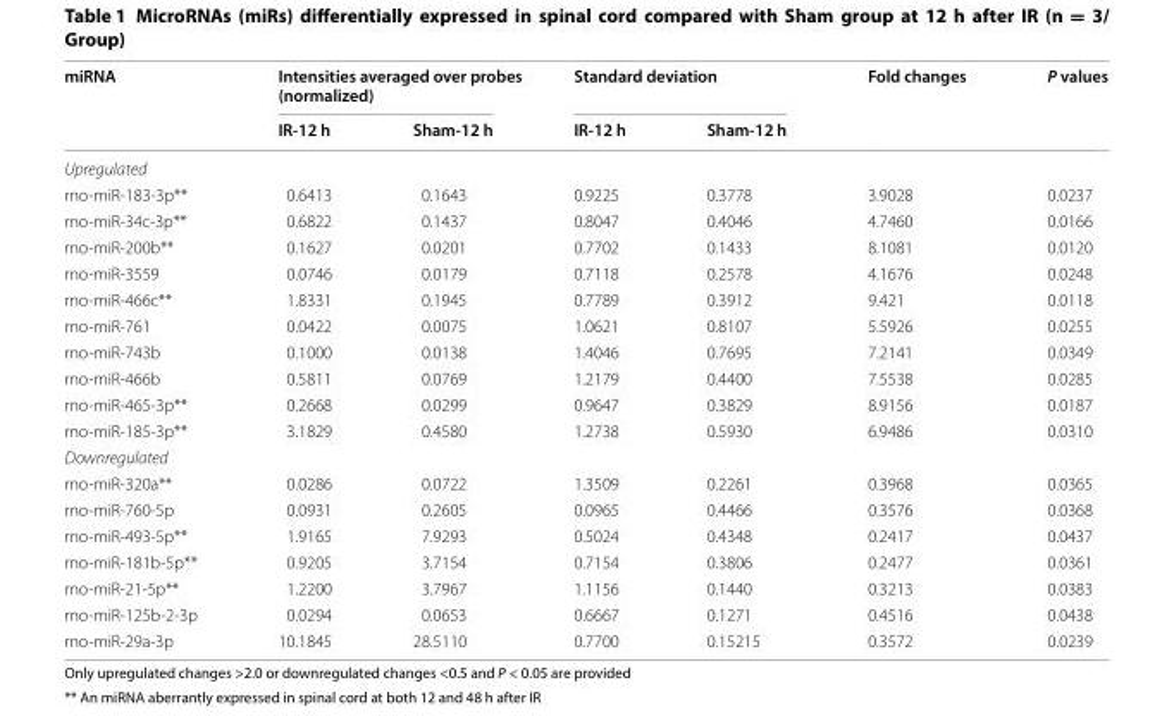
<table><thead><tr><td rowspan="2">miRNA</td><td colspan="2">Intensities averaged over probes (normalized)</td><td colspan="2">Standard deviation</td><td rowspan="2">Fold changes</td><td rowspan="2">P values</td></tr><tr><td>IR‑12 h</td><td>Sham‑12 h</td><td>IR‑12 h</td><td>Sham‑12 h</td></tr></thead><tbody><tr><td colspan="7">Upregulated</td></tr><tr><td>rno‑miR‑183‑3p**</td><td>0.6413</td><td>0.1643</td><td>0.9225</td><td>0.3778</td><td>3.9028</td><td>0.0237</td></tr><tr><td>rno‑miR‑34c‑3p**</td><td>0.6822</td><td>0.1437</td><td>0.8047</td><td>0.4046</td><td>4.7460</td><td>0.0166</td></tr><tr><td>rno‑miR‑200b**</td><td>0.1627</td><td>0.0201</td><td>0.7702</td><td>0.1433</td><td>8.1081</td><td>0.0120</td></tr><tr><td>rno‑miR‑3559</td><td>0.0746</td><td>0.0179</td><td>0.7118</td><td>0.2578</td><td>4.1676</td><td>0.0248</td></tr><tr><td>rno‑miR‑466c**</td><td>1.8331</td><td>0.1945</td><td>0.7789</td><td>0.3912</td><td>9.421</td><td>0.0118</td></tr><tr><td>rno‑miR‑761</td><td>0.0422</td><td>0.0075</td><td>1.0621</td><td>0.8107</td><td>5.5926</td><td>0.0255</td></tr><tr><td>rno‑miR‑743b</td><td>0.1000</td><td>0.0138</td><td>1.4046</td><td>0.7695</td><td>7.2141</td><td>0.0349</td></tr><tr><td>rno‑miR‑466b</td><td>0.5811</td><td>0.0769</td><td>1.2179</td><td>0.4400</td><td>7.5538</td><td>0.0285</td></tr><tr><td>rno‑miR‑465‑3p**</td><td>0.2668</td><td>0.0299</td><td>0.9647</td><td>0.3829</td><td>8.9156</td><td>0.0187</td></tr><tr><td>rno‑miR‑185‑3p**</td><td>3.1829</td><td>0.4580</td><td>1.2738</td><td>0.5930</td><td>6.9486</td><td>0.0310</td></tr><tr><td colspan="7">Downregulated</td></tr><tr><td>rno‑miR‑320a**</td><td>0.0286</td><td>0.0722</td><td>1.3509</td><td>0.2261</td><td>0.3968</td><td>0.0365</td></tr><tr><td>rno‑miR‑760‑5p</td><td>0.0931</td><td>0.2605</td><td>0.0965</td><td>0.4466</td><td>0.3576</td><td>0.0368</td></tr><tr><td>rno‑miR‑493‑5p**</td><td>1.9165</td><td>7.9293</td><td>0.5024</td><td>0.4348</td><td>0.2417</td><td>0.0437</td></tr><tr><td>rno‑miR‑181b‑5p**</td><td>0.9205</td><td>3.7154</td><td>0.7154</td><td>0.3806</td><td>0.2477</td><td>0.0361</td></tr><tr><td>rno‑miR‑21‑5p**</td><td>1.2200</td><td>3.7967</td><td>1.1156</td><td>0.1440</td><td>0.3213</td><td>0.0383</td></tr><tr><td>rno‑miR‑125b‑2‑3p</td><td>0.0294</td><td>0.0653</td><td>0.6667</td><td>0.1271</td><td>0.4516</td><td>0.0438</td></tr><tr><td>rno‑miR‑29a‑3p</td><td>10.1845</td><td>28.5110</td><td>0.7700</td><td>0.15215</td><td>0.3572</td><td>0.0239</td></tr></tbody></table>